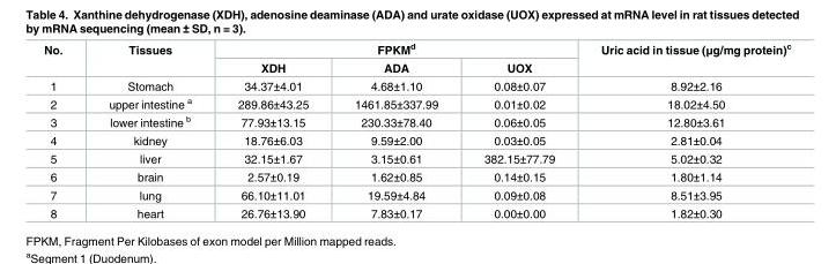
<table><thead><tr><td rowspan="2">No.</td><td rowspan="2">Tissues</td><td colspan="3">FPKM<sup>d</sup></td><td rowspan="2">Uric acid in tissue (μg/mg protein)<sup>c</sup></td></tr><tr><td>XDH</td><td>ADA</td><td>UOX</td></tr></thead><tbody><tr><td>1</td><td>Stomach</td><td>34.37±4.01</td><td>4.68±1.10</td><td>0.08±0.07</td><td>8.92±2.16</td></tr><tr><td>2</td><td>upper intestine <sup>a</sup></td><td>289.86±43.25</td><td>1461.85±337.99</td><td>0.01±0.02</td><td>18.02±4.50</td></tr><tr><td>3</td><td>lower intestine <sup>b</sup></td><td>77.93±13.15</td><td>230.33±78.40</td><td>0.06±0.05</td><td>12.80±3.61</td></tr><tr><td>4</td><td>kidney</td><td>18.76±6.03</td><td>9.59±2.00</td><td>0.03±0.05</td><td>2.81±0.04</td></tr><tr><td>5</td><td>liver</td><td>32.15±1.67</td><td>3.15±0.61</td><td>382.15±77.79</td><td>5.02±0.32</td></tr><tr><td>6</td><td>brain</td><td>2.57±0.19</td><td>1.62±0.85</td><td>0.14±0.15</td><td>1.80±1.14</td></tr><tr><td>7</td><td>lung</td><td>66.10±11.01</td><td>19.59±4.84</td><td>0.09±0.08</td><td>8.51±3.95</td></tr><tr><td>8</td><td>heart</td><td>26.76±13.90</td><td>7.83±0.17</td><td>0.00±0.00</td><td>1.82±0.30</td></tr></tbody></table>